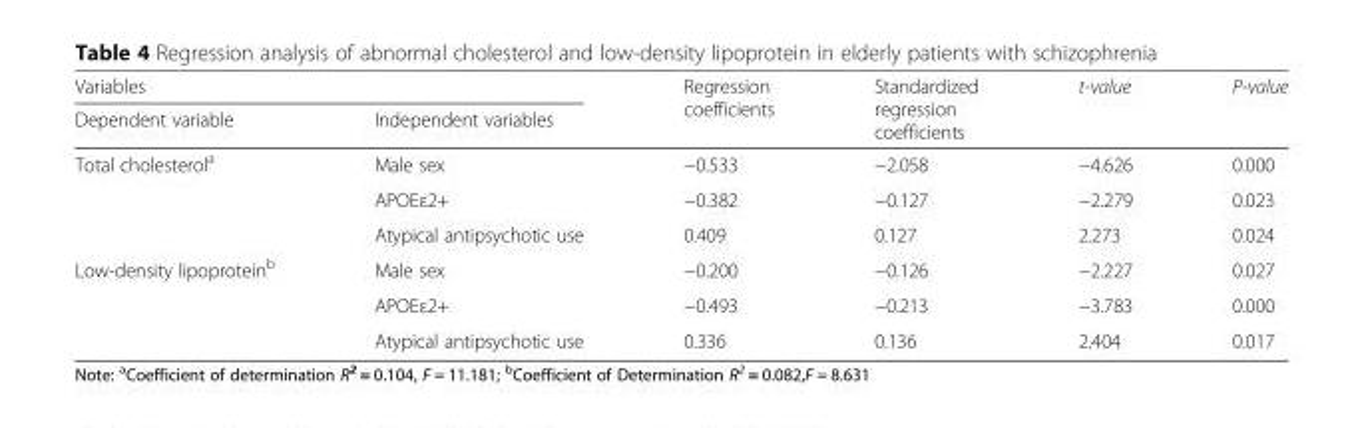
<table><thead><tr><td colspan="2">Variables</td><td rowspan="2">Regression coefficients</td><td rowspan="2">Standardized regression coefficients</td><td rowspan="2">t-value</td><td rowspan="2">P-value</td></tr><tr><td>Dependent variable</td><td>Independent variables</td></tr></thead><tbody><tr><td rowspan="3">Total cholesterol<sup>a</sup></td><td>Male sex</td><td>−0.533</td><td>−2.058</td><td>−4.626</td><td>0.000</td></tr><tr><td>APOEε2+</td><td>−0.382</td><td>−0.127</td><td>−2.279</td><td>0.023</td></tr><tr><td>Atypical antipsychotic use</td><td>0.409</td><td>0.127</td><td>2.273</td><td>0.024</td></tr><tr><td rowspan="3">Low-density lipoprotein<sup>b</sup></td><td>Male sex</td><td>−0.200</td><td>−0.126</td><td>−2.227</td><td>0.027</td></tr><tr><td>APOEε2+</td><td>−0.493</td><td>−0.213</td><td>−3.783</td><td>0.000</td></tr><tr><td>Atypical antipsychotic use</td><td>0.336</td><td>0.136</td><td>2.404</td><td>0.017</td></tr></tbody></table>